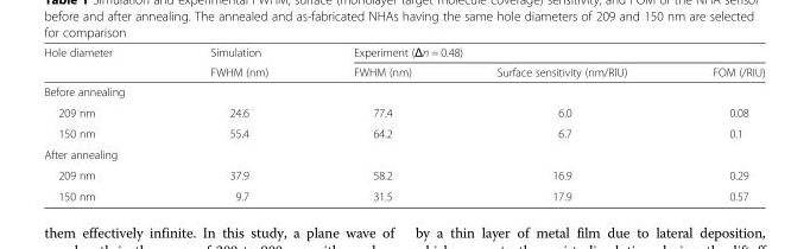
<table><thead><tr><td rowspan="2">Hole diameter</td><td rowspan="2">Simulation FWHM (nm)</td><td colspan="3">Experiment (Δn = 0.48)</td></tr><tr><td>FWHM (nm)</td><td>Surface sensitivity (nm/RIU)</td><td>FOM (/RIU)</td></tr></thead><tbody><tr><td colspan="5">Before annealing</td></tr><tr><td>209 nm</td><td>24.6</td><td>77.4</td><td>6.0</td><td>0.08</td></tr><tr><td>150 nm</td><td>55.4</td><td>64.2</td><td>6.7</td><td>0.1</td></tr><tr><td colspan="5">After annealing</td></tr><tr><td>209 nm</td><td>37.9</td><td>58.2</td><td>16.9</td><td>0.29</td></tr><tr><td>150 nm</td><td>9.7</td><td>31.5</td><td>17.9</td><td>0.57</td></tr></tbody></table>